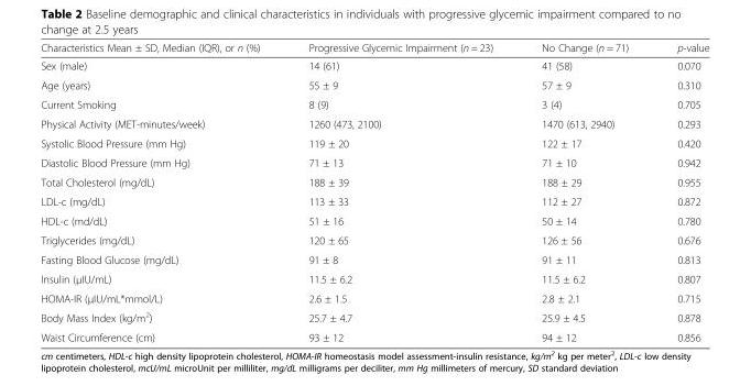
<table><thead><tr><td>Characteristics Mean ± SD, Median (IQR), or n (%)</td><td>Progressive Glycemic Impairment (n = 23)</td><td>No Change (n = 71)</td><td>p-value</td></tr></thead><tbody><tr><td>Sex (male)</td><td>14 (61)</td><td>41 (58)</td><td>0.070</td></tr><tr><td>Age (years)</td><td>55 ± 9</td><td>57 ± 9</td><td>0.310</td></tr><tr><td>Current Smoking</td><td>8 (9)</td><td>3 (4)</td><td>0.705</td></tr><tr><td>Physical Activity (MET-minutes/week)</td><td>1260 (473, 2100)</td><td>1470 (613, 2940)</td><td>0.293</td></tr><tr><td>Systolic Blood Pressure (mm Hg)</td><td>119 ± 20</td><td>122 ± 17</td><td>0.420</td></tr><tr><td>Diastolic Blood Pressure (mm Hg)</td><td>71 ± 13</td><td>71 ± 10</td><td>0.942</td></tr><tr><td>Total Cholesterol (mg/dL)</td><td>188 ± 39</td><td>188 ± 29</td><td>0.955</td></tr><tr><td>LDL-c (mg/dL)</td><td>113 ± 33</td><td>112 ± 27</td><td>0.872</td></tr><tr><td>HDL-c (md/dL)</td><td>51 ± 16</td><td>50 ± 14</td><td>0.780</td></tr><tr><td>Triglycerides (mg/dL)</td><td>120 ± 65</td><td>126 ± 56</td><td>0.676</td></tr><tr><td>Fasting Blood Glucose (mg/dL)</td><td>91 ± 8</td><td>91 ± 11</td><td>0.813</td></tr><tr><td>Insulin (μIU/mL)</td><td>11.5 ± 6.2</td><td>11.5 ± 6.2</td><td>0.807</td></tr><tr><td>HOMA-IR (μIU/mL*mmol/L)</td><td>2.6 ± 1.5</td><td>2.8 ± 2.1</td><td>0.715</td></tr><tr><td>Body Mass Index (kg/m<sup>2</sup>)</td><td>25.7 ± 4.7</td><td>25.9 ± 4.5</td><td>0.878</td></tr><tr><td>Waist Circumference (cm)</td><td>93 ± 12</td><td>94 ± 12</td><td>0.856</td></tr></tbody></table>